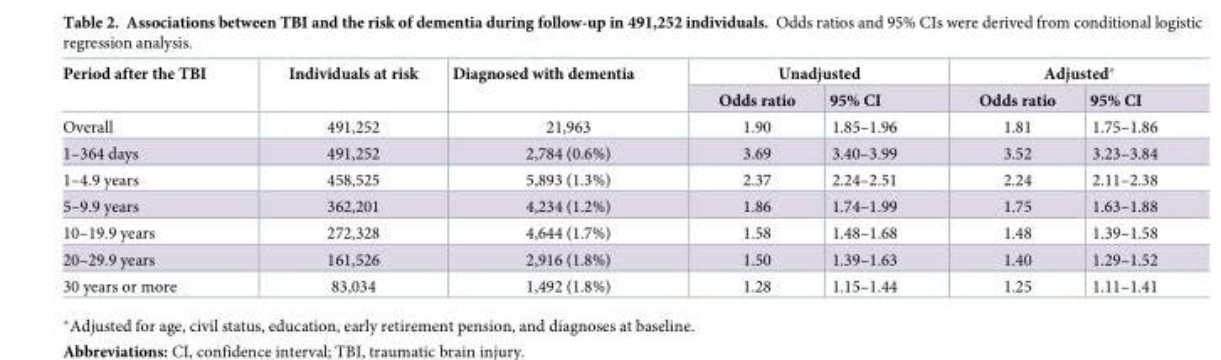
<table><thead><tr><td rowspan="2">Period after the TBI</td><td rowspan="2">Individuals at risk</td><td rowspan="2">Diagnosed with dementia</td><td colspan="2">Unadjusted</td><td colspan="2">Adjusted*</td></tr><tr><td>Odds ratio</td><td>95% CI</td><td>Odds ratio</td><td>95% CI</td></tr></thead><tbody><tr><td>Overall</td><td>491,252</td><td>21,963</td><td>1.90</td><td>1.85–1.96</td><td>1.81</td><td>1.75–1.86</td></tr><tr><td>1–364 days</td><td>491,252</td><td>2,784 (0.6%)</td><td>3.69</td><td>3.40–3.99</td><td>3.52</td><td>3.23–3.84</td></tr><tr><td>1–4.9 years</td><td>458,525</td><td>5,893 (1.3%)</td><td>2.37</td><td>2.24–2.51</td><td>2.24</td><td>2.11–2.38</td></tr><tr><td>5–9.9 years</td><td>362,201</td><td>4,234 (1.2%)</td><td>1.86</td><td>1.74–1.99</td><td>1.75</td><td>1.63–1.88</td></tr><tr><td>10–19.9 years</td><td>272,328</td><td>4,644 (1.7%)</td><td>1.58</td><td>1.48–1.68</td><td>1.48</td><td>1.39–1.58</td></tr><tr><td>20–29.9 years</td><td>161,526</td><td>2,916 (1.8%)</td><td>1.50</td><td>1.39–1.63</td><td>1.40</td><td>1.29–1.52</td></tr><tr><td>30 years or more</td><td>83,034</td><td>1,492 (1.8%)</td><td>1.28</td><td>1.15–1.44</td><td>1.25</td><td>1.11–1.41</td></tr></tbody></table>